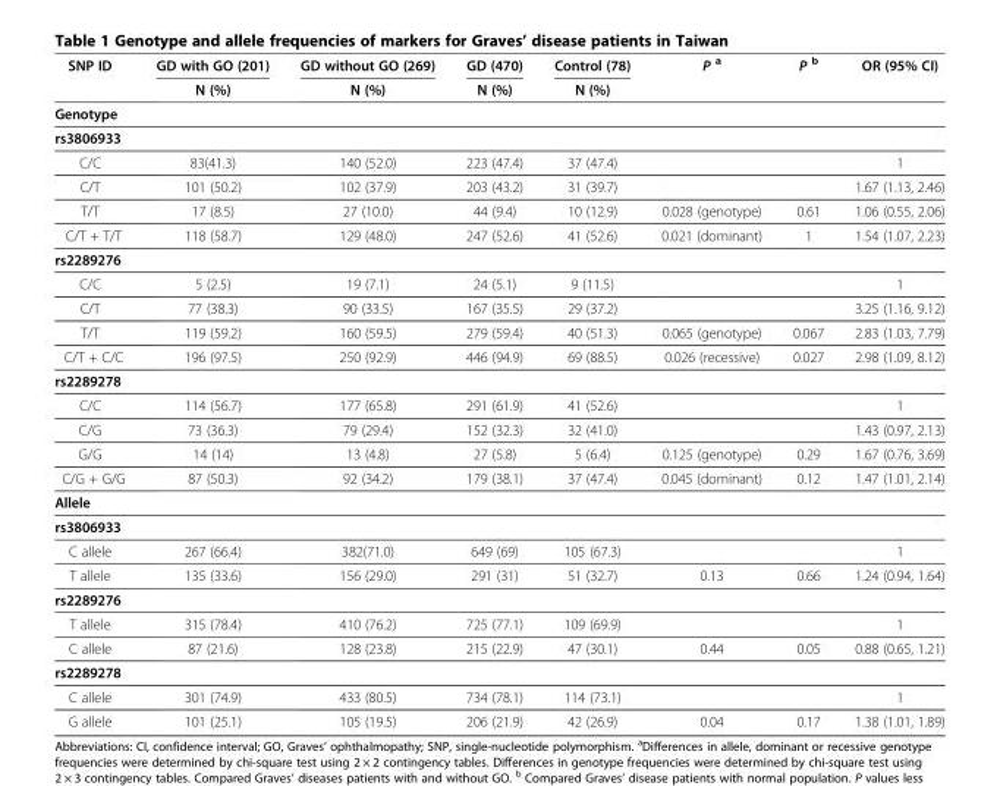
<table><thead><tr><td rowspan="2">SNP ID</td><td rowspan="2">GD with GO (201) N (%)</td><td rowspan="2">GD without GO (269) N (%)</td><td rowspan="2">GD (470) N (%)</td><td rowspan="2">Control (78) N (%)</td><td rowspan="2">P <sup>a</sup></td><td rowspan="2">P <sup>b</sup></td><td rowspan="2">OR (95% CI)</td></tr><tr></tr></thead><tbody><tr><td colspan="8">Genotype</td></tr><tr><td colspan="8">rs3806933</td></tr><tr><td>C/C</td><td>83(41.3)</td><td>140 (52.0)</td><td>223 (47.4)</td><td>37 (47.4)</td><td></td><td></td><td>1</td></tr><tr><td>C/T</td><td>101 (50.2)</td><td>102 (37.9)</td><td>203 (43.2)</td><td>31 (39.7)</td><td></td><td></td><td>1.67 (1.13, 2.46)</td></tr><tr><td>T/T</td><td>17 (8.5)</td><td>27 (10.0)</td><td>44 (9.4)</td><td>10 (12.9)</td><td>0.028 (genotype)</td><td>0.61</td><td>1.06 (0.55, 2.06)</td></tr><tr><td>C/T + T/T</td><td>118 (58.7)</td><td>129 (48.0)</td><td>247 (52.6)</td><td>41 (52.6)</td><td>0.021 (dominant)</td><td>1</td><td>1.54 (1.07, 2.23)</td></tr><tr><td colspan="8">rs2289276</td></tr><tr><td>C/C</td><td>5 (2.5)</td><td>19 (7.1)</td><td>24 (5.1)</td><td>9 (11.5)</td><td></td><td></td><td>1</td></tr><tr><td>C/T</td><td>77 (38.3)</td><td>90 (33.5)</td><td>167 (35.5)</td><td>29 (37.2)</td><td></td><td></td><td>3.25 (1.16, 9.12)</td></tr><tr><td>T/T</td><td>119 (59.2)</td><td>160 (59.5)</td><td>279 (59.4)</td><td>40 (51.3)</td><td>0.065 (genotype)</td><td>0.067</td><td>2.83 (1.03, 7.79)</td></tr><tr><td>C/T + C/C</td><td>196 (97.5)</td><td>250 (92.9)</td><td>446 (94.9)</td><td>69 (88.5)</td><td>0.026 (recessive)</td><td>0.027</td><td>2.98 (1.09, 8.12)</td></tr><tr><td colspan="8">rs2289278</td></tr><tr><td>C/C</td><td>114 (56.7)</td><td>177 (65.8)</td><td>291 (61.9)</td><td>41 (52.6)</td><td></td><td></td><td>1</td></tr><tr><td>C/G</td><td>73 (36.3)</td><td>79 (29.4)</td><td>152 (32.3)</td><td>32 (41.0)</td><td></td><td></td><td>1.43 (0.97, 2.13)</td></tr><tr><td>G/G</td><td>14 (14)</td><td>13 (4.8)</td><td>27 (5.8)</td><td>5 (6.4)</td><td>0.125 (genotype)</td><td>0.29</td><td>1.67 (0.76, 3.69)</td></tr><tr><td>C/G + G/G</td><td>87 (50.3)</td><td>92 (34.2)</td><td>179 (38.1)</td><td>37 (47.4)</td><td>0.045 (dominant)</td><td>0.12</td><td>1.47 (1.01, 2.14)</td></tr><tr><td colspan="8">Allele</td></tr><tr><td colspan="8">rs3806933</td></tr><tr><td>C allele</td><td>267 (66.4)</td><td>382(71.0)</td><td>649 (69)</td><td>105 (67.3)</td><td></td><td></td><td>1</td></tr><tr><td>T allele</td><td>135 (33.6)</td><td>156 (29.0)</td><td>291 (31)</td><td>51 (32.7)</td><td>0.13</td><td>0.66</td><td>1.24 (0.94, 1.64)</td></tr><tr><td colspan="8">rs2289276</td></tr><tr><td>T allele</td><td>315 (78.4)</td><td>410 (76.2)</td><td>725 (77.1)</td><td>109 (69.9)</td><td></td><td></td><td>1</td></tr><tr><td>C allele</td><td>87 (21.6)</td><td>128 (23.8)</td><td>215 (22.9)</td><td>47 (30.1)</td><td>0.44</td><td>0.05</td><td>0.88 (0.65, 1.21)</td></tr><tr><td colspan="8">rs2289278</td></tr><tr><td>C allele</td><td>301 (74.9)</td><td>433 (80.5)</td><td>734 (78.1)</td><td>114 (73.1)</td><td></td><td></td><td>1</td></tr><tr><td>G allele</td><td>101 (25.1)</td><td>105 (19.5)</td><td>206 (21.9)</td><td>42 (26.9)</td><td>0.04</td><td>0.17</td><td>1.38 (1.01, 1.89)</td></tr></tbody></table>